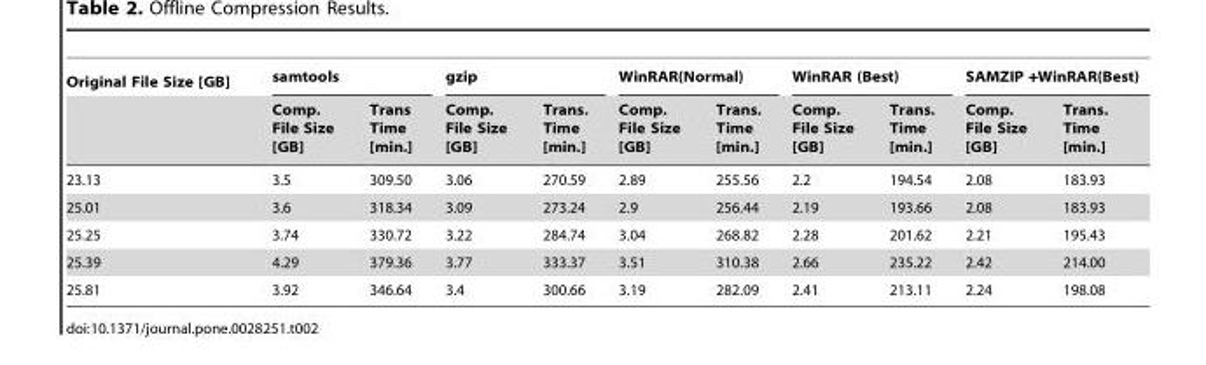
<table><thead><tr><td rowspan="2">Original File Size [GB]</td><td colspan="2">samtools</td><td colspan="2">gzip</td><td colspan="2">WinRAR(Normal)</td><td colspan="2">WinRAR (Best)</td><td colspan="2">SAMZIP +WinRAR(Best)</td></tr><tr><td>Comp. File Size [GB]</td><td>Trans Time [min.]</td><td>Comp. File Size [GB]</td><td>Trans. Time [min.]</td><td>Comp. File Size [GB]</td><td>Trans. Time [min.]</td><td>Comp. File Size [GB]</td><td>Trans. Time [min.]</td><td>Comp. File Size [GB]</td><td>Trans. Time [min.]</td></tr></thead><tbody><tr><td>23.13</td><td>3.5</td><td>309.50</td><td>3.06</td><td>270.59</td><td>2.89</td><td>255.56</td><td>2.2</td><td>194.54</td><td>2.08</td><td>183.93</td></tr><tr><td>25.01</td><td>3.6</td><td>318.34</td><td>3.09</td><td>273.24</td><td>2.9</td><td>256.44</td><td>2.19</td><td>193.66</td><td>2.08</td><td>183.93</td></tr><tr><td>25.25</td><td>3.74</td><td>330.72</td><td>3.22</td><td>284.74</td><td>3.04</td><td>268.82</td><td>2.28</td><td>201.62</td><td>2.21</td><td>195.43</td></tr><tr><td>25.39</td><td>4.29</td><td>379.36</td><td>3.77</td><td>333.37</td><td>3.51</td><td>310.38</td><td>2.66</td><td>235.22</td><td>2.42</td><td>214.00</td></tr><tr><td>25.81</td><td>3.92</td><td>346.64</td><td>3.4</td><td>300.66</td><td>3.19</td><td>282.09</td><td>2.41</td><td>213.11</td><td>2.24</td><td>198.08</td></tr></tbody></table>